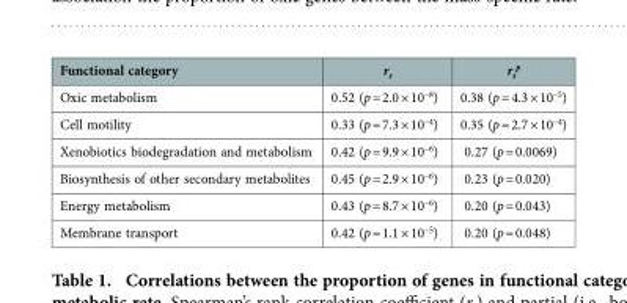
<table><thead><tr><td>Functional category</td><td>r<sub>s</sub></td><td>r<sub>s</sub> <sup>p</sup></td></tr></thead><tbody><tr><td>Oxic metabolism</td><td>0.52 (p = 2.0 × 10<sup>–8</sup>)</td><td>0.38 (p = 4.3 × 10<sup>–5</sup>)</td></tr><tr><td>Cell motility</td><td>0.33 (p = 7.3 × 10<sup>–4</sup>)</td><td>0.35 (p = 2.7 × 10<sup>–4</sup>)</td></tr><tr><td>Xenobiotics biodegradation and metabolism</td><td>0.42 (p = 9.9 × 10<sup>–6</sup>)</td><td>0.27 (p = 0.0069)</td></tr><tr><td>Biosynthesis of other secondary metabolites</td><td>0.45 (p = 2.9 × 10<sup>–6</sup>)</td><td>0.23 (p = 0.020)</td></tr><tr><td>Energy metabolism</td><td>0.43 (p = 8.7 × 10<sup>–6</sup>)</td><td>0.20 (p = 0.043)</td></tr><tr><td>Membrane transport</td><td>0.42 (p = 1.1 × 10<sup>–5</sup>)</td><td>0.20 (p = 0.048)</td></tr></tbody></table>